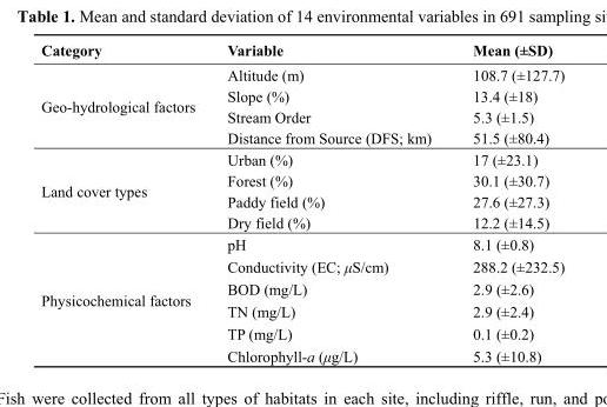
<table><thead><tr><td>Category</td><td>Variable</td><td>Mean (±SD)</td></tr></thead><tbody><tr><td rowspan="4">Geo-hydrological factors</td><td>Altitude (m)</td><td>108.7 (±127.7)</td></tr><tr><td>Slope (%)</td><td>13.4 (±18)</td></tr><tr><td>Stream Order</td><td>5.3 (±1.5)</td></tr><tr><td>Distance from Source (DFS; km)</td><td>51.5 (±80.4)</td></tr><tr><td rowspan="4">Land cover types</td><td>Urban (%)</td><td>17 (±23.1)</td></tr><tr><td>Forest (%)</td><td>30.1 (±30.7)</td></tr><tr><td>Paddy field (%)</td><td>27.6 (±27.3)</td></tr><tr><td>Dry field (%)</td><td>12.2 (±14.5)</td></tr><tr><td rowspan="6">Physicochemical factors</td><td>pH</td><td>8.1 (±0.8)</td></tr><tr><td>Conductivity (EC; μS/cm)</td><td>288.2 (±232.5)</td></tr><tr><td>BOD (mg/L)</td><td>2.9 (±2.6)</td></tr><tr><td>TN (mg/L)</td><td>2.9 (±2.4)</td></tr><tr><td>TP (mg/L)</td><td>0.1 (±0.2)</td></tr><tr><td>Chlorophyll-a (μg/L)</td><td>5.3 (±10.8)</td></tr></tbody></table>